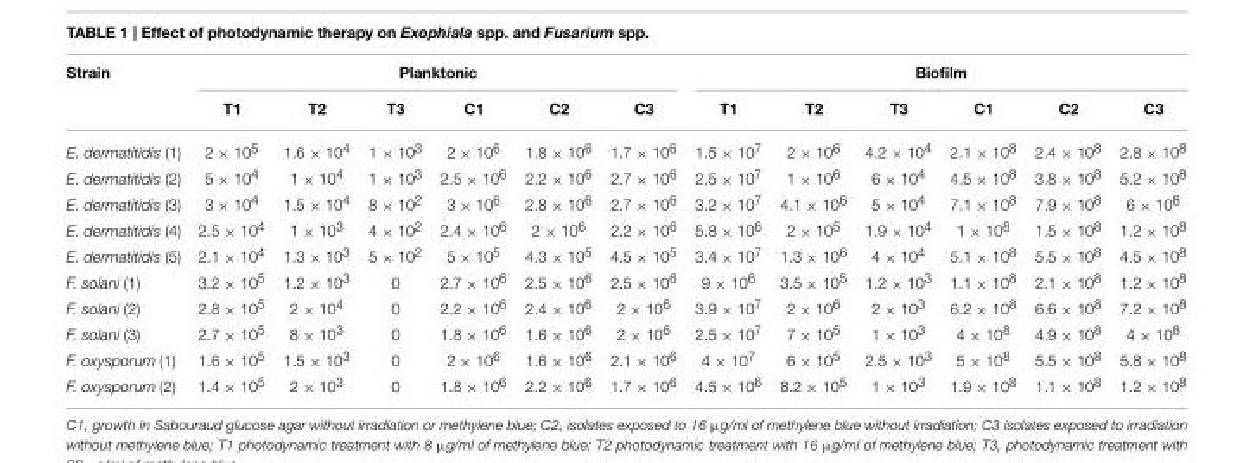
<table><thead><tr><td rowspan="2">Strain</td><td colspan="6">Planktonic</td><td colspan="6">Biofilm</td></tr><tr><td>T1</td><td>T2</td><td>T3</td><td>C1</td><td>C2</td><td>C3</td><td>T1</td><td>T2</td><td>T3</td><td>C1</td><td>C2</td><td>C3</td></tr></thead><tbody><tr><td>E. dermatitidis (1)</td><td>2 × 10<sup>5</sup></td><td>1.6 × 10<sup>4</sup></td><td>1 × 10<sup>3</sup></td><td>2 × 10<sup>6</sup></td><td>1.8 × 10<sup>6</sup></td><td>1.7 × 10<sup>6</sup></td><td>1.5 × 10<sup>7</sup></td><td>2 × 10<sup>6</sup></td><td>4.2 × 10<sup>4</sup></td><td>2.1 × 10<sup>8</sup></td><td>2.4 × 10<sup>8</sup></td><td>2.8 × 10<sup>8</sup></td></tr><tr><td>E. dermatitidis (2)</td><td>5 × 10<sup>4</sup></td><td>1 × 10<sup>4</sup></td><td>1 × 10<sup>3</sup></td><td>2.5 × 10<sup>6</sup></td><td>2.2 × 10<sup>6</sup></td><td>2.7 × 10<sup>6</sup></td><td>2.5 × 10<sup>7</sup></td><td>1 × 10<sup>6</sup></td><td>6 × 10<sup>4</sup></td><td>4.5 × 10<sup>8</sup></td><td>3.8 × 10<sup>8</sup></td><td>5.2 × 10<sup>8</sup></td></tr><tr><td>E. dermatitidis (3)</td><td>3 × 10<sup>4</sup></td><td>1.5 × 10<sup>4</sup></td><td>8 × 10<sup>2</sup></td><td>3 × 10<sup>6</sup></td><td>2.8 × 10<sup>6</sup></td><td>2.7 × 10<sup>6</sup></td><td>3.2 × 10<sup>7</sup></td><td>4.1 × 10<sup>6</sup></td><td>5 × 10<sup>4</sup></td><td>7.1 × 10<sup>8</sup></td><td>7.9 × 10<sup>8</sup></td><td>6 × 10<sup>8</sup></td></tr><tr><td>E. dermatitidis (4)</td><td>2.5 × 10<sup>4</sup></td><td>1 × 10<sup>3</sup></td><td>4 × 10<sup>2</sup></td><td>2.4 × 10<sup>6</sup></td><td>2 × 10<sup>6</sup></td><td>2.2 × 10<sup>6</sup></td><td>5.8 × 10<sup>6</sup></td><td>2 × 10<sup>5</sup></td><td>1.9 × 10<sup>4</sup></td><td>1 × 10<sup>8</sup></td><td>1.5 × 10<sup>8</sup></td><td>1.2 × 10<sup>8</sup></td></tr><tr><td>E. dermatitidis (5)</td><td>2.1 × 10<sup>4</sup></td><td>1.3 × 10<sup>3</sup></td><td>5 × 10<sup>2</sup></td><td>5 × 10<sup>5</sup></td><td>4.3 × 10<sup>5</sup></td><td>4.5 × 10<sup>5</sup></td><td>3.4 × 10<sup>7</sup></td><td>1.3 × 10<sup>6</sup></td><td>4 × 10<sup>4</sup></td><td>5.1 × 10<sup>8</sup></td><td>5.5 × 10<sup>8</sup></td><td>4.5 × 10<sup>8</sup></td></tr><tr><td>F. solani (1)</td><td>3.2 × 10<sup>5</sup></td><td>1.2 × 10<sup>3</sup></td><td>0</td><td>2.7 × 10<sup>6</sup></td><td>2.5 × 10<sup>6</sup></td><td>2.5 × 10<sup>6</sup></td><td>9 × 10<sup>6</sup></td><td>3.5 × 10<sup>5</sup></td><td>1.2 × 10<sup>3</sup></td><td>1.1 × 10<sup>8</sup></td><td>2.1 × 10<sup>8</sup></td><td>1.2 × 10<sup>8</sup></td></tr><tr><td>F. solani (2)</td><td>2.8 × 10<sup>5</sup></td><td>2 × 10<sup>4</sup></td><td>0</td><td>2.2 × 10<sup>6</sup></td><td>2.4 × 10<sup>6</sup></td><td>2 × 10<sup>6</sup></td><td>3.9 × 10<sup>7</sup></td><td>2 × 10<sup>6</sup></td><td>2 × 10<sup>3</sup></td><td>6.2 × 10<sup>8</sup></td><td>6.6 × 10<sup>8</sup></td><td>7.2 × 10<sup>8</sup></td></tr><tr><td>F. solani (3)</td><td>2.7 × 10<sup>5</sup></td><td>8 × 10<sup>3</sup></td><td>0</td><td>1.8 × 10<sup>6</sup></td><td>1.6 × 10<sup>6</sup></td><td>2 × 10<sup>6</sup></td><td>2.5 × 10<sup>7</sup></td><td>7 × 10<sup>5</sup></td><td>1 × 10<sup>3</sup></td><td>4 × 10<sup>8</sup></td><td>4.9 × 10<sup>8</sup></td><td>4 × 10<sup>8</sup></td></tr><tr><td>F. oxysporum (1)</td><td>1.6 × 10<sup>5</sup></td><td>1.5 × 10<sup>3</sup></td><td>0</td><td>2 × 10<sup>6</sup></td><td>1.6 × 10<sup>6</sup></td><td>2.1 × 10<sup>6</sup></td><td>4 × 10<sup>7</sup></td><td>6 × 10<sup>5</sup></td><td>2.5 × 10<sup>3</sup></td><td>5 × 10<sup>8</sup></td><td>5.5 × 10<sup>8</sup></td><td>5.8 × 10<sup>8</sup></td></tr><tr><td>F. oxysporum (2)</td><td>1.4 × 10<sup>5</sup></td><td>2 × 10<sup>3</sup></td><td>0</td><td>1.8 × 10<sup>6</sup></td><td>2.2 × 10<sup>6</sup></td><td>1.7 × 10<sup>6</sup></td><td>4.5 × 10<sup>6</sup></td><td>8.2 × 10<sup>5</sup></td><td>1 × 10<sup>3</sup></td><td>1.9 × 10<sup>8</sup></td><td>1.1 × 10<sup>8</sup></td><td>1.2 × 10<sup>8</sup></td></tr></tbody></table>